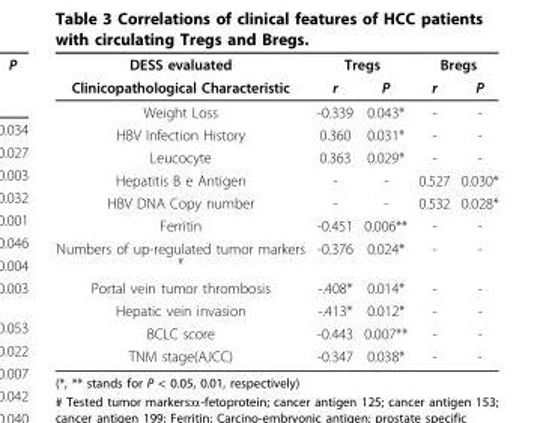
<table><thead><tr><td rowspan="2">DESS evaluated Clinicopathological Characteristic</td><td colspan="2">Tregs</td><td colspan="2">Bregs</td></tr><tr><td>r</td><td>P</td><td>r</td><td>P</td></tr></thead><tbody><tr><td>Weight Loss</td><td>-0.339</td><td>0.043*</td><td>-</td><td>-</td></tr><tr><td>HBV Infection History</td><td>0.360</td><td>0.031*</td><td>-</td><td>-</td></tr><tr><td>Leucocyte</td><td>0.363</td><td>0.029*</td><td>-</td><td>-</td></tr><tr><td>Hepatitis B e Antigen</td><td>-</td><td>-</td><td>0.527</td><td>0.030*</td></tr><tr><td>HBV DNA Copy number</td><td>-</td><td>-</td><td>0.532</td><td>0.028*</td></tr><tr><td>Ferritin</td><td>-0.451</td><td>0.006**</td><td>-</td><td>-</td></tr><tr><td>Numbers of up-regulated tumor markers <sup>#</sup></td><td>-0.376</td><td>0.024*</td><td>-</td><td>-</td></tr><tr><td>Portal vein tumor thrombosis</td><td>-.408*</td><td>0.014*</td><td>-</td><td>-</td></tr><tr><td>Hepatic vein invasion</td><td>-.413*</td><td>0.012*</td><td>-</td><td>-</td></tr><tr><td>BCLC score</td><td>-0.443</td><td>0.007**</td><td>-</td><td>-</td></tr><tr><td>TNM stage(AJCC)</td><td>-0.347</td><td>0.038*</td><td>-</td><td>-</td></tr></tbody></table>